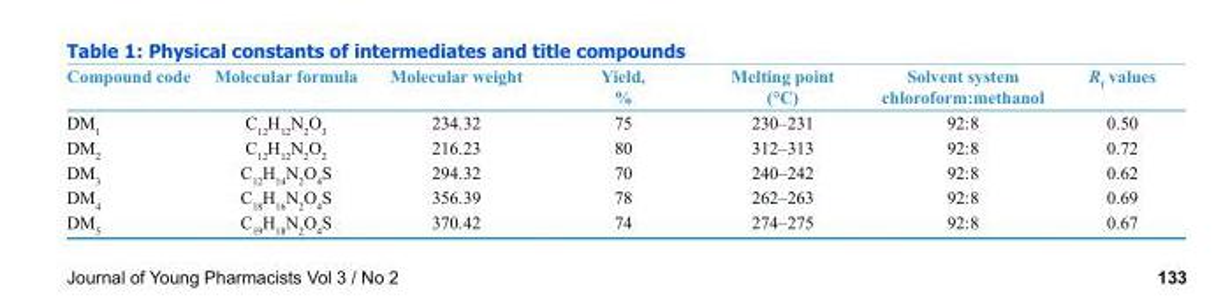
<table><thead><tr><td>Compound code</td><td>Molecular formula</td><td>Molecular weight</td><td>Yield, %</td><td>Melting point (°C)</td><td>Solvent system chloroform:methanol</td><td>R<sub>f</sub> values</td></tr></thead><tbody><tr><td>DM<sub>1</sub></td><td>C<sub>12</sub>H<sub>12</sub>N<sub>2</sub>O<sub>3</sub></td><td>234.32</td><td>75</td><td>230–231</td><td>92:8</td><td>0.50</td></tr><tr><td>DM<sub>2</sub></td><td>C<sub>12</sub>H<sub>12</sub>N<sub>2</sub>O<sub>2</sub></td><td>216.23</td><td>80</td><td>312–313</td><td>92:8</td><td>0.72</td></tr><tr><td>DM<sub>3</sub></td><td>C<sub>12</sub>H<sub>14</sub>N<sub>2</sub>O<sub>4</sub>S</td><td>294.32</td><td>70</td><td>240–242</td><td>92:8</td><td>0.62</td></tr><tr><td>DM<sub>4</sub></td><td>C<sub>18</sub>H<sub>16</sub>N<sub>2</sub>O<sub>4</sub>S</td><td>356.39</td><td>78</td><td>262–263</td><td>92:8</td><td>0.69</td></tr><tr><td>DM<sub>5</sub></td><td>C<sub>19</sub>H<sub>18</sub>N<sub>2</sub>O<sub>4</sub>S</td><td>370.42</td><td>74</td><td>274–275</td><td>92:8</td><td>0.67</td></tr></tbody></table>